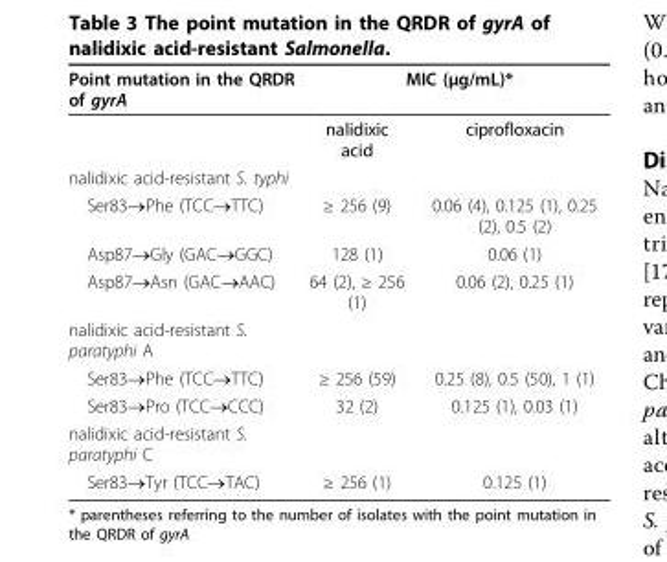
<table><thead><tr><td rowspan="2">Point mutation in the QRDR of gyrA</td><td colspan="2">MIC (μg/mL)*</td></tr><tr><td>nalidixic acid</td><td>ciprofloxacin</td></tr></thead><tbody><tr><td colspan="3">nalidixic acid-resistant S. typhi</td></tr><tr><td>Ser83→Phe (TCC→TTC)</td><td>≥ 256 (9)</td><td>0.06 (4), 0.125 (1), 0.25 (2), 0.5 (2)</td></tr><tr><td>Asp87→Gly (GAC→GGC)</td><td>128 (1)</td><td>0.06 (1)</td></tr><tr><td>Asp87→Asn (GAC→AAC)</td><td>64 (2), ≥ 256 (1)</td><td>0.06 (2), 0.25 (1)</td></tr><tr><td colspan="3">nalidixic acid-resistant S. paratyphi A</td></tr><tr><td>Ser83→Phe (TCC→TTC)</td><td>≥ 256 (59)</td><td>0.25 (8), 0.5 (50), 1 (1)</td></tr><tr><td>Ser83→Pro (TCC→CCC)</td><td>32 (2)</td><td>0.125 (1), 0.03 (1)</td></tr><tr><td colspan="3">nalidixic acid-resistant S. paratyphi C</td></tr><tr><td>Ser83→Tyr (TCC→TAC)</td><td>≥ 256 (1)</td><td>0.125 (1)</td></tr></tbody></table>